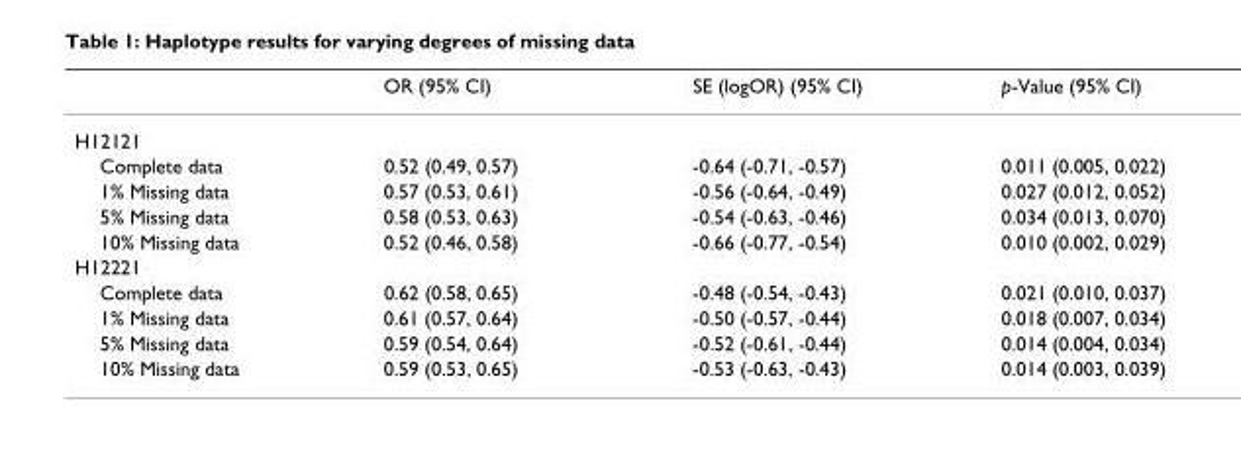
<table><thead><tr><td></td><td>OR (95% CI)</td><td>SE (logOR) (95% CI)</td><td>p-Value (95% CI)</td></tr></thead><tbody><tr><td colspan="4">H12121</td></tr><tr><td>Complete data</td><td>0.52 (0.49, 0.57)</td><td>-0.64 (-0.71, -0.57)</td><td>0.011 (0.005, 0.022)</td></tr><tr><td>1% Missing data</td><td>0.57 (0.53, 0.61)</td><td>-0.56 (-0.64, -0.49)</td><td>0.027 (0.012, 0.052)</td></tr><tr><td>5% Missing data</td><td>0.58 (0.53, 0.63)</td><td>-0.54 (-0.63, -0.46)</td><td>0.034 (0.013, 0.070)</td></tr><tr><td>10% Missing data</td><td>0.52 (0.46, 0.58)</td><td>-0.66 (-0.77, -0.54)</td><td>0.010 (0.002, 0.029)</td></tr><tr><td colspan="4">H12221</td></tr><tr><td>Complete data</td><td>0.62 (0.58, 0.65)</td><td>-0.48 (-0.54, -0.43)</td><td>0.021 (0.010, 0.037)</td></tr><tr><td>1% Missing data</td><td>0.61 (0.57, 0.64)</td><td>-0.50 (-0.57, -0.44)</td><td>0.018 (0.007, 0.034)</td></tr><tr><td>5% Missing data</td><td>0.59 (0.54, 0.64)</td><td>-0.52 (-0.61, -0.44)</td><td>0.014 (0.004, 0.034)</td></tr><tr><td>10% Missing data</td><td>0.59 (0.53, 0.65)</td><td>-0.53 (-0.63, -0.43)</td><td>0.014 (0.003, 0.039)</td></tr></tbody></table>